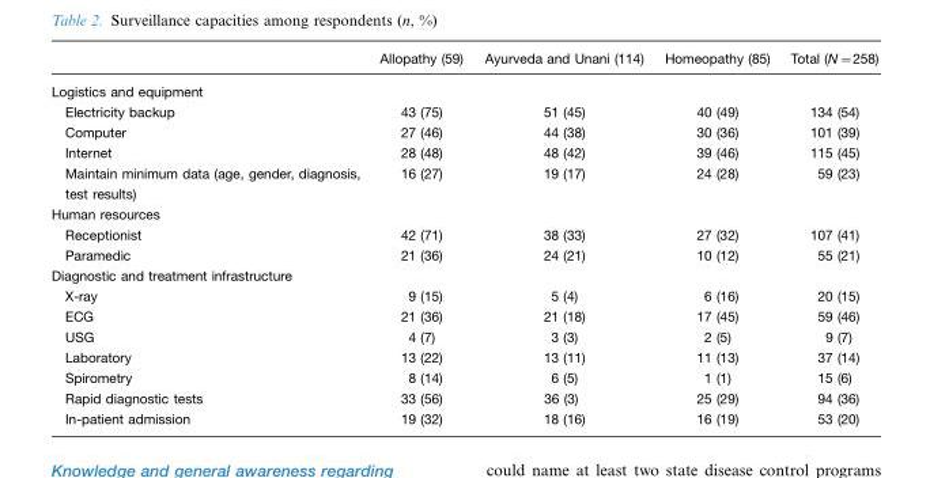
<table><thead><tr><td></td><td>Allopathy (59)</td><td>Ayurveda and Unani (114)</td><td>Homeopathy (85)</td><td>Total (N=258)</td></tr></thead><tbody><tr><td colspan="5">Logistics and equipment</td></tr><tr><td>Electricity backup</td><td>43 (75)</td><td>51 (45)</td><td>40 (49)</td><td>134 (54)</td></tr><tr><td>Computer</td><td>27 (46)</td><td>44 (38)</td><td>30 (36)</td><td>101 (39)</td></tr><tr><td>Internet</td><td>28 (48)</td><td>48 (42)</td><td>39 (46)</td><td>115 (45)</td></tr><tr><td>Maintain minimum data (age, gender, diagnosis, test results)</td><td>16 (27)</td><td>19 (17)</td><td>24 (28)</td><td>59 (23)</td></tr><tr><td colspan="5">Human resources</td></tr><tr><td>Receptionist</td><td>42 (71)</td><td>38 (33)</td><td>27 (32)</td><td>107 (41)</td></tr><tr><td>Paramedic</td><td>21 (36)</td><td>24 (21)</td><td>10 (12)</td><td>55 (21)</td></tr><tr><td colspan="5">Diagnostic and treatment infrastructure</td></tr><tr><td>X-ray</td><td>9 (15)</td><td>5 (4)</td><td>6 (16)</td><td>20 (15)</td></tr><tr><td>ECG</td><td>21 (36)</td><td>21 (18)</td><td>17 (45)</td><td>59 (46)</td></tr><tr><td>USG</td><td>4 (7)</td><td>3 (3)</td><td>2 (5)</td><td>9 (7)</td></tr><tr><td>Laboratory</td><td>13 (22)</td><td>13 (11)</td><td>11 (13)</td><td>37 (14)</td></tr><tr><td>Spirometry</td><td>8 (14)</td><td>6 (5)</td><td>1 (1)</td><td>15 (6)</td></tr><tr><td>Rapid diagnostic tests</td><td>33 (56)</td><td>36 (3)</td><td>25 (29)</td><td>94 (36)</td></tr><tr><td>In-patient admission</td><td>19 (32)</td><td>18 (16)</td><td>16 (19)</td><td>53 (20)</td></tr></tbody></table>